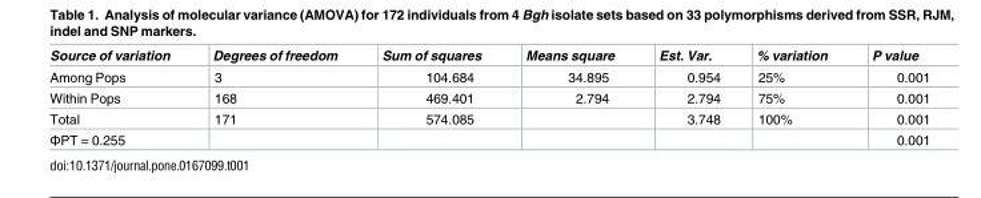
<table><thead><tr><td>Source of variation</td><td>Degrees of freedom</td><td>Sum of squares</td><td>Means square</td><td>Est. Var.</td><td>% variation</td><td>P value</td></tr></thead><tbody><tr><td>Among Pops</td><td>3</td><td>104.684</td><td>34.895</td><td>0.954</td><td>25%</td><td>0.001</td></tr><tr><td>Within Pops</td><td>168</td><td>469.401</td><td>2.794</td><td>2.794</td><td>75%</td><td>0.001</td></tr><tr><td>Total</td><td>171</td><td>574.085</td><td></td><td>3.748</td><td>100%</td><td>0.001</td></tr><tr><td>ΦPT = 0.255</td><td></td><td></td><td></td><td></td><td></td><td>0.001</td></tr></tbody></table>